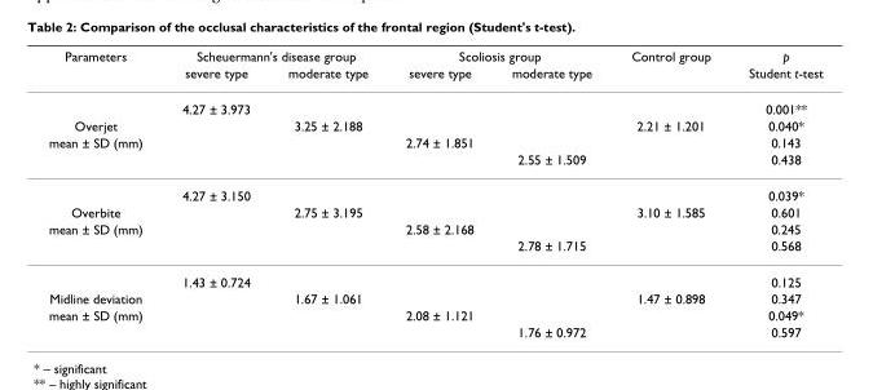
<table><thead><tr><td rowspan="2">Parameters</td><td colspan="2">Scheuermann&#x27;s disease group</td><td colspan="2">Scoliosis group</td><td rowspan="2">Control group</td><td rowspan="2">p Student t-test</td></tr><tr><td>severe type</td><td>moderate type</td><td>severe type</td><td>moderate type</td></tr></thead><tbody><tr><td></td><td>4.27 ± 3.973</td><td></td><td></td><td></td><td></td><td>0.001**</td></tr><tr><td>Overjet</td><td></td><td>3.25 ± 2.188</td><td></td><td></td><td>2.21 ± 1.201</td><td>0.040*</td></tr><tr><td rowspan="3">mean ± SD (mm)</td><td></td><td></td><td>2.74 ± 1.851</td><td></td><td></td><td>0.143</td></tr><tr><td></td><td></td><td></td><td>2.55 ± 1.509</td><td></td><td>0.438</td></tr><tr><td>4.27 ± 3.150</td><td></td><td></td><td></td><td></td><td>0.039*</td></tr><tr><td>Overbite</td><td></td><td>2.75 ± 3.195</td><td></td><td></td><td>3.10 ± 1.585</td><td>0.601</td></tr><tr><td rowspan="3">mean ± SD (mm)</td><td></td><td></td><td>2.58 ± 2.168</td><td></td><td></td><td>0.245</td></tr><tr><td></td><td></td><td></td><td>2.78 ± 1.715</td><td></td><td>0.568</td></tr><tr><td>1.43 ± 0.724</td><td></td><td></td><td></td><td></td><td>0.125</td></tr><tr><td>Midline deviation</td><td></td><td>1.67 ± 1.061</td><td></td><td></td><td>1.47 ± 0.898</td><td>0.347</td></tr><tr><td rowspan="2">mean ± SD (mm)</td><td></td><td></td><td>2.08 ± 1.121</td><td></td><td></td><td>0.049*</td></tr><tr><td></td><td></td><td></td><td>1.76 ± 0.972</td><td></td><td>0.597</td></tr></tbody></table>